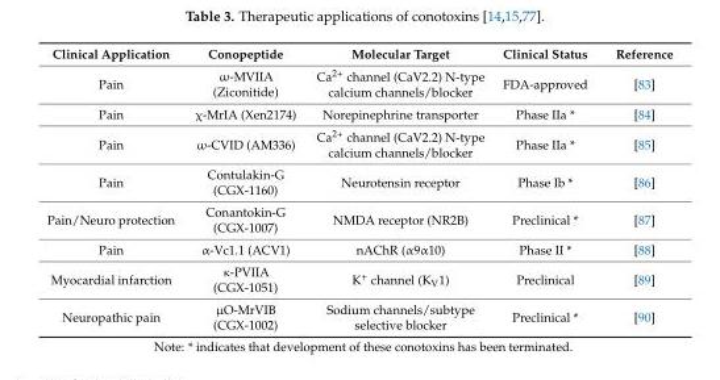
<table><thead><tr><td>Clinical Application</td><td>Conopeptide</td><td>Molecular Target</td><td>Clinical Status</td><td>Reference</td></tr></thead><tbody><tr><td>Pain</td><td>ω-MVIIA (Ziconitide)</td><td>Ca<sup>2+</sup> channel (CaV2.2) N-type calcium channels/blocker</td><td>FDA-approved</td><td>[83]</td></tr><tr><td>Pain</td><td>χ-MrIA (Xen2174)</td><td>Norepinephrine transporter</td><td>Phase IIa *</td><td>[84]</td></tr><tr><td>Pain</td><td>ω-CVID (AM336)</td><td>Ca<sup>2+</sup> channel (CaV2.2) N-type calcium channels/blocker</td><td>Phase IIa *</td><td>[85]</td></tr><tr><td>Pain</td><td>Contulakin-G (CGX-1160)</td><td>Neurotensin receptor</td><td>Phase Ib *</td><td>[86]</td></tr><tr><td>Pain/Neuro protection</td><td>Conantokin-G (CGX-1007)</td><td>NMDA receptor (NR2B)</td><td>Preclinical *</td><td>[87]</td></tr><tr><td>Pain</td><td>α-Vc1.1 (ACV1)</td><td>nAChR (α9α10)</td><td>Phase II *</td><td>[88]</td></tr><tr><td>Myocardial infarction</td><td>κ-PVIIA (CGX-1051)</td><td>K<sup>+</sup> channel (K<sub>V</sub>1)</td><td>Preclinical</td><td>[89]</td></tr><tr><td>Neuropathic pain</td><td>µO-MrVIB (CGX-1002)</td><td>Sodium channels/subtype selective blocker</td><td>Preclinical *</td><td>[90]</td></tr></tbody></table>